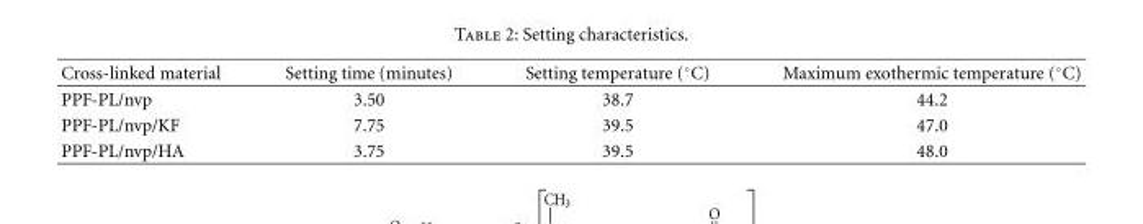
<table><thead><tr><td>Cross-linked material</td><td>Setting time (minutes)</td><td>Setting temperature (◦C)</td><td>Maximum exothermic temperature (◦C)</td></tr></thead><tbody><tr><td>PPF-PL/nvp</td><td>3.50</td><td>38.7</td><td>44.2</td></tr><tr><td>PPF-PL/nvp/KF</td><td>7.75</td><td>39.5</td><td>47.0</td></tr><tr><td>PPF-PL/nvp/HA</td><td>3.75</td><td>39.5</td><td>48.0</td></tr></tbody></table>